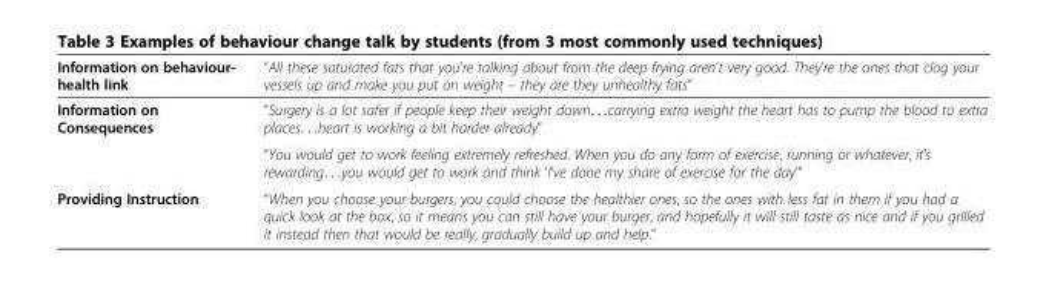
<table><thead><tr><td>Information on behaviour- health link</td><td>“All these saturated fats that you’re talking about from the deep frying aren’t very good. They’re the ones that clog your vessels up and make you put on weight – they are they unhealthy fats”</td></tr></thead><tbody><tr><td rowspan="2">Information on Consequences</td><td>“Surgery is a lot safer if people keep their weight down. . .carrying extra weight the heart has to pump the blood to extra places. . .heart is working a bit harder already”</td></tr><tr><td>“You would get to work feeling extremely refreshed. When you do any form of exercise, running or whatever, it’s rewarding. . .you would get to work and think ‘I’ve done my share of exercise for the day’”</td></tr><tr><td>Providing Instruction</td><td>“When you choose your burgers, you could choose the healthier ones, so the ones with less fat in them if you had a quick look at the box, so it means you can still have your burger, and hopefully it will still taste as nice and if you grilled it instead then that would be really, gradually build up and help.”</td></tr></tbody></table>